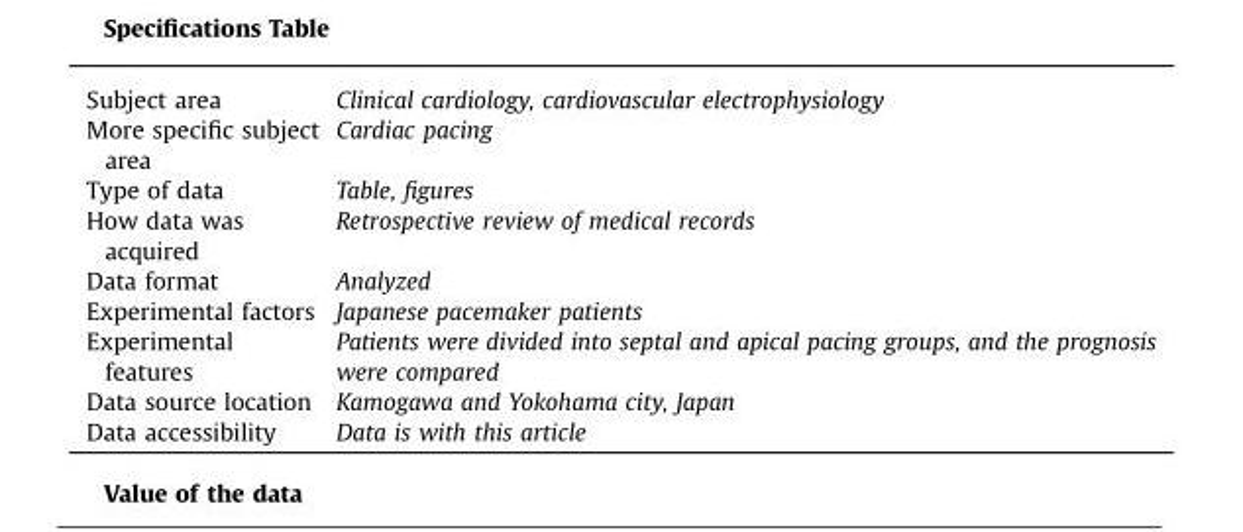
<table><tbody><tr><td>Subject area</td><td>Clinical cardiology, cardiovascular electrophysiology</td></tr><tr><td>More specific subject area</td><td>Cardiac pacing</td></tr><tr><td>Type of data</td><td>Table, figures</td></tr><tr><td>How data was acquired</td><td>Retrospective review of medical records</td></tr><tr><td>Data format</td><td>Analyzed</td></tr><tr><td>Experimental factors</td><td>Japanese pacemaker patients</td></tr><tr><td>Experimental features</td><td>Patients were divided into septal and apical pacing groups, and the prognosis were compared</td></tr><tr><td>Data source location</td><td>Kamogawa and Yokohama city, Japan</td></tr><tr><td>Data accessibility</td><td>Data is with this article</td></tr></tbody></table>